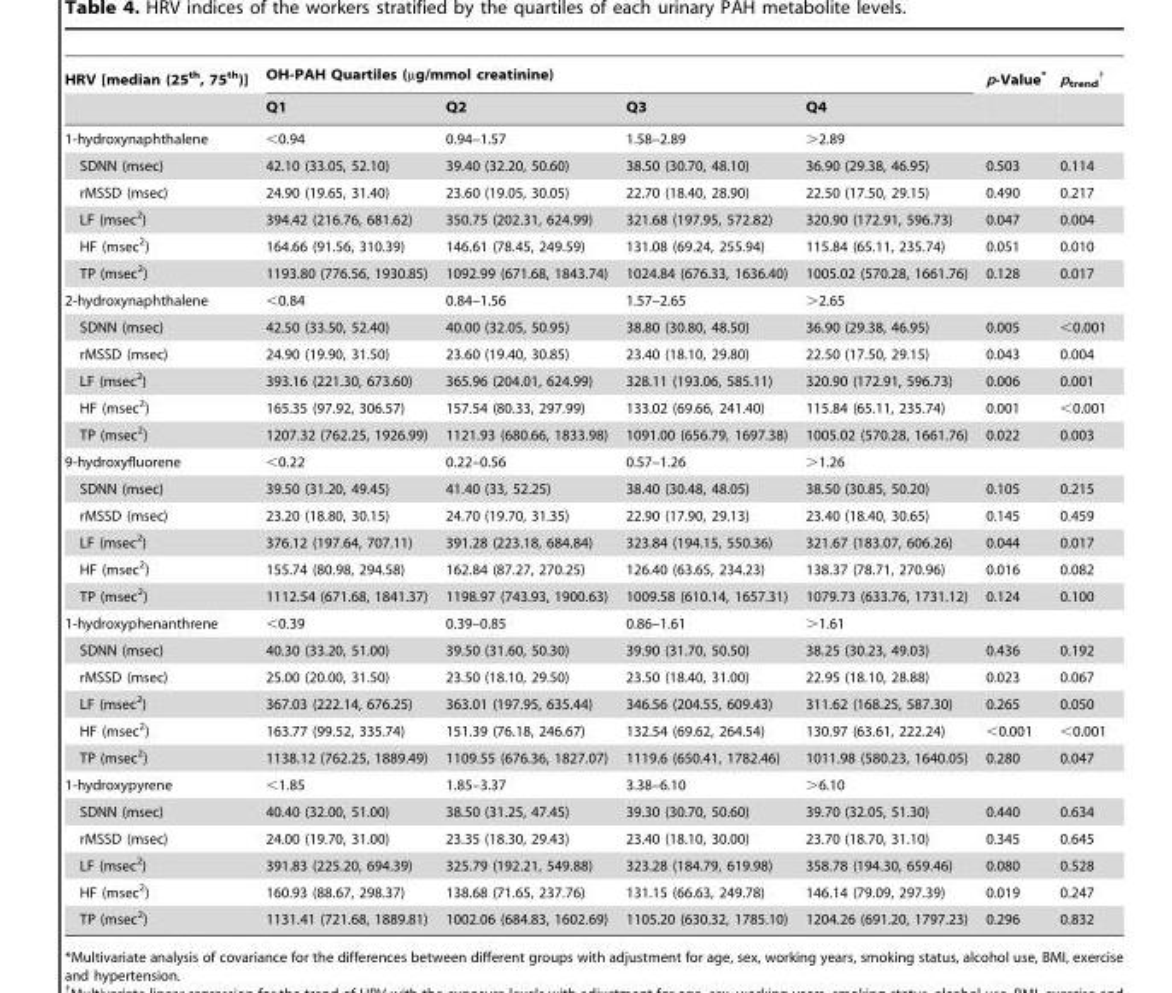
<table><thead><tr><td rowspan="2">HRV [median (25<sup>th</sup>, 75<sup>th</sup>)]</td><td colspan="4">OH-PAH Quartiles (µg/mmol creatinine)</td><td rowspan="2">p-Value*</td><td rowspan="2">p<sub>trend</sub> †</td></tr><tr><td>Q1</td><td>Q2</td><td>Q3</td><td>Q4</td></tr></thead><tbody><tr><td>1-hydroxynaphthalene</td><td>&lt;0.94</td><td>0.94–1.57</td><td>1.58–2.89</td><td>&gt;2.89</td><td></td><td></td></tr><tr><td>SDNN (msec)</td><td>42.10 (33.05, 52.10)</td><td>39.40 (32.20, 50.60)</td><td>38.50 (30.70, 48.10)</td><td>36.90 (29.38, 46.95)</td><td>0.503</td><td>0.114</td></tr><tr><td>rMSSD (msec)</td><td>24.90 (19.65, 31.40)</td><td>23.60 (19.05, 30.05)</td><td>22.70 (18.40, 28.90)</td><td>22.50 (17.50, 29.15)</td><td>0.490</td><td>0.217</td></tr><tr><td>LF (msec<sup>2</sup>)</td><td>394.42 (216.76, 681.62)</td><td>350.75 (202.31, 624.99)</td><td>321.68 (197.95, 572.82)</td><td>320.90 (172.91, 596.73)</td><td>0.047</td><td>0.004</td></tr><tr><td>HF (msec<sup>2</sup>)</td><td>164.66 (91.56, 310.39)</td><td>146.61 (78.45, 249.59)</td><td>131.08 (69.24, 255.94)</td><td>115.84 (65.11, 235.74)</td><td>0.051</td><td>0.010</td></tr><tr><td>TP (msec<sup>2</sup>)</td><td>1193.80 (776.56, 1930.85)</td><td>1092.99 (671.68, 1843.74)</td><td>1024.84 (676.33, 1636.40)</td><td>1005.02 (570.28, 1661.76)</td><td>0.128</td><td>0.017</td></tr><tr><td>2-hydroxynaphthalene</td><td>&lt;0.84</td><td>0.84–1.56</td><td>1.57–2.65</td><td>&gt;2.65</td><td></td><td></td></tr><tr><td>SDNN (msec)</td><td>42.50 (33.50, 52.40)</td><td>40.00 (32.05, 50.95)</td><td>38.80 (30.80, 48.50)</td><td>36.90 (29.38, 46.95)</td><td>0.005</td><td>&lt;0.001</td></tr><tr><td>rMSSD (msec)</td><td>24.90 (19.90, 31.50)</td><td>23.60 (19.40, 30.85)</td><td>23.40 (18.10, 29.80)</td><td>22.50 (17.50, 29.15)</td><td>0.043</td><td>0.004</td></tr><tr><td>LF (msec<sup>2</sup>)</td><td>393.16 (221.30, 673.60)</td><td>365.96 (204.01, 624.99)</td><td>328.11 (193.06, 585.11)</td><td>320.90 (172.91, 596.73)</td><td>0.006</td><td>0.001</td></tr><tr><td>HF (msec<sup>2</sup>)</td><td>165.35 (97.92, 306.57)</td><td>157.54 (80.33, 297.99)</td><td>133.02 (69.66, 241.40)</td><td>115.84 (65.11, 235.74)</td><td>0.001</td><td>&lt;0.001</td></tr><tr><td>TP (msec<sup>2</sup>)</td><td>1207.32 (762.25, 1926.99)</td><td>1121.93 (680.66, 1833.98)</td><td>1091.00 (656.79, 1697.38)</td><td>1005.02 (570.28, 1661.76)</td><td>0.022</td><td>0.003</td></tr><tr><td>9-hydroxyfluorene</td><td>&lt;0.22</td><td>0.22–0.56</td><td>0.57–1.26</td><td>&gt;1.26</td><td></td><td></td></tr><tr><td>SDNN (msec)</td><td>39.50 (31.20, 49.45)</td><td>41.40 (33, 52.25)</td><td>38.40 (30.48, 48.05)</td><td>38.50 (30.85, 50.20)</td><td>0.105</td><td>0.215</td></tr><tr><td>rMSSD (msec)</td><td>23.20 (18.80, 30.15)</td><td>24.70 (19.70, 31.35)</td><td>22.90 (17.90, 29.13)</td><td>23.40 (18.40, 30.65)</td><td>0.145</td><td>0.459</td></tr><tr><td>LF (msec<sup>2</sup>)</td><td>376.12 (197.64, 707.11)</td><td>391.28 (223.18, 684.84)</td><td>323.84 (194.15, 550.36)</td><td>321.67 (183.07, 606.26)</td><td>0.044</td><td>0.017</td></tr><tr><td>HF (msec<sup>2</sup>)</td><td>155.74 (80.98, 294.58)</td><td>162.84 (87.27, 270.25)</td><td>126.40 (63.65, 234.23)</td><td>138.37 (78.71, 270.96)</td><td>0.016</td><td>0.082</td></tr><tr><td>TP (msec<sup>2</sup>)</td><td>1112.54 (671.68, 1841.37)</td><td>1198.97 (743.93, 1900.63)</td><td>1009.58 (610.14, 1657.31)</td><td>1079.73 (633.76, 1731.12)</td><td>0.124</td><td>0.100</td></tr><tr><td>1-hydroxyphenanthrene</td><td>&lt;0.39</td><td>0.39–0.85</td><td>0.86–1.61</td><td>&gt;1.61</td><td></td><td></td></tr><tr><td>SDNN (msec)</td><td>40.30 (33.20, 51.00)</td><td>39.50 (31.60, 50.30)</td><td>39.90 (31.70, 50.50)</td><td>38.25 (30.23, 49.03)</td><td>0.436</td><td>0.192</td></tr><tr><td>rMSSD (msec)</td><td>25.00 (20.00, 31.50)</td><td>23.50 (18.10, 29.50)</td><td>23.50 (18.40, 31.00)</td><td>22.95 (18.10, 28.88)</td><td>0.023</td><td>0.067</td></tr><tr><td>LF (msec<sup>2</sup>)</td><td>367.03 (222.14, 676.25)</td><td>363.01 (197.95, 635.44)</td><td>346.56 (204.55, 609.43)</td><td>311.62 (168.25, 587.30)</td><td>0.265</td><td>0.050</td></tr><tr><td>HF (msec<sup>2</sup>)</td><td>163.77 (99.52, 335.74)</td><td>151.39 (76.18, 246.67)</td><td>132.54 (69.62, 264.54)</td><td>130.97 (63.61, 222.24)</td><td>&lt;0.001</td><td>&lt;0.001</td></tr><tr><td>TP (msec<sup>2</sup>)</td><td>1138.12 (762.25, 1889.49)</td><td>1109.55 (676.36, 1827.07)</td><td>1119.6 (650.41, 1782.46)</td><td>1011.98 (580.23, 1640.05)</td><td>0.280</td><td>0.047</td></tr><tr><td>1-hydroxypyrene</td><td>&lt;1.85</td><td>1.85–3.37</td><td>3.38–6.10</td><td>&gt;6.10</td><td></td><td></td></tr><tr><td>SDNN (msec)</td><td>40.40 (32.00, 51.00)</td><td>38.50 (31.25, 47.45)</td><td>39.30 (30.70, 50.60)</td><td>39.70 (32.05, 51.30)</td><td>0.440</td><td>0.634</td></tr><tr><td>rMSSD (msec)</td><td>24.00 (19.70, 31.00)</td><td>23.35 (18.30, 29.43)</td><td>23.40 (18.10, 30.00)</td><td>23.70 (18.70, 31.10)</td><td>0.345</td><td>0.645</td></tr><tr><td>LF (msec<sup>2</sup>)</td><td>391.83 (225.20, 694.39)</td><td>325.79 (192.21, 549.88)</td><td>323.28 (184.79, 619.98)</td><td>358.78 (194.30, 659.46)</td><td>0.080</td><td>0.528</td></tr><tr><td>HF (msec<sup>2</sup>)</td><td>160.93 (88.67, 298.37)</td><td>138.68 (71.65, 237.76)</td><td>131.15 (66.63, 249.78)</td><td>146.14 (79.09, 297.39)</td><td>0.019</td><td>0.247</td></tr><tr><td>TP (msec<sup>2</sup>)</td><td>1131.41 (721.68, 1889.81)</td><td>1002.06 (684.83, 1602.69)</td><td>1105.20 (630.32, 1785.10)</td><td>1204.26 (691.20, 1797.23)</td><td>0.296</td><td>0.832</td></tr></tbody></table>